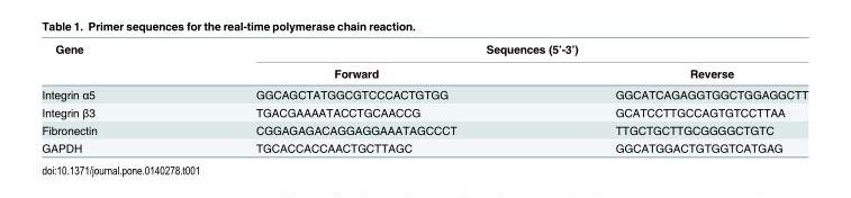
<table><thead><tr><td rowspan="2">Gene</td><td colspan="2">Sequences (5’-3’)</td></tr><tr><td>Forward</td><td>Reverse</td></tr></thead><tbody><tr><td>Integrin α5</td><td>GGCAGCTATGGCGTCCCACTGTGG</td><td>GGCATCAGAGGTGGCTGGAGGCTT</td></tr><tr><td>Integrin β3</td><td>TGACGAAAATACCTGCAACCG</td><td>GCATCCTTGCCAGTGTCCTTAA</td></tr><tr><td>Fibronectin</td><td>CGGAGAGACAGGAGGAAATAGCCCT</td><td>TTGCTGCTTGCGGGGCTGTC</td></tr><tr><td>GAPDH</td><td>TGCACCACCAACTGCTTAGC</td><td>GGCATGGACTGTGGTCATGAG</td></tr></tbody></table>